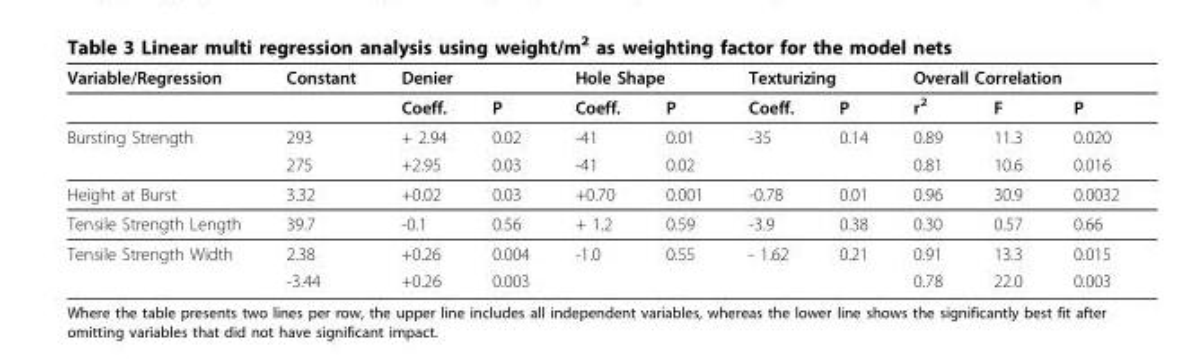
<table><thead><tr><td rowspan="2">Variable/Regression</td><td rowspan="2">Constant</td><td colspan="2">Denier</td><td colspan="2">Hole Shape</td><td colspan="2">Texturizing</td><td colspan="3">Overall Correlation</td></tr><tr><td>Coeff.</td><td>P</td><td>Coeff.</td><td>P</td><td>Coeff.</td><td>P</td><td>r<sup>2</sup></td><td>F</td><td>P</td></tr></thead><tbody><tr><td rowspan="2">Bursting Strength</td><td>293</td><td>+ 2.94</td><td>0.02</td><td>-41</td><td>0.01</td><td>-35</td><td>0.14</td><td>0.89</td><td>11.3</td><td>0.020</td></tr><tr><td>275</td><td>+2.95</td><td>0.03</td><td>-41</td><td>0.02</td><td></td><td></td><td>0.81</td><td>10.6</td><td>0.016</td></tr><tr><td>Height at Burst</td><td>3.32</td><td>+0.02</td><td>0.03</td><td>+0.70</td><td>0.001</td><td>-0.78</td><td>0.01</td><td>0.96</td><td>30.9</td><td>0.0032</td></tr><tr><td>Tensile Strength Length</td><td>39.7</td><td>-0.1</td><td>0.56</td><td>+ 1.2</td><td>0.59</td><td>-3.9</td><td>0.38</td><td>0.30</td><td>0.57</td><td>0.66</td></tr><tr><td rowspan="2">Tensile Strength Width</td><td>2.38</td><td>+0.26</td><td>0.004</td><td>-1.0</td><td>0.55</td><td>- 1.62</td><td>0.21</td><td>0.91</td><td>13.3</td><td>0.015</td></tr><tr><td>-3.44</td><td>+0.26</td><td>0.003</td><td></td><td></td><td></td><td></td><td>0.78</td><td>22.0</td><td>0.003</td></tr></tbody></table>